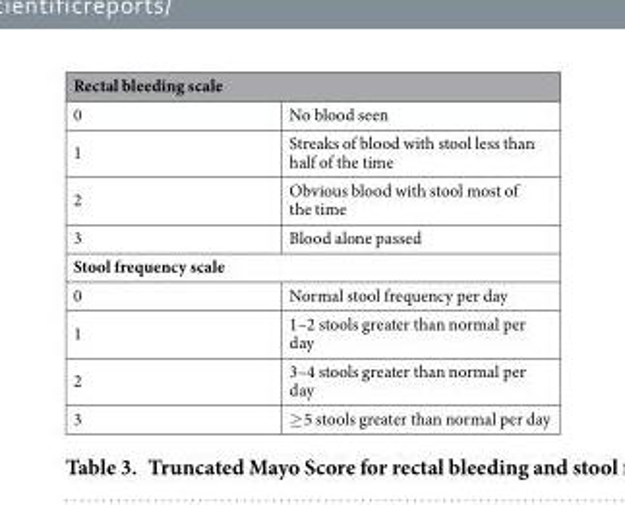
<table><thead><tr><td colspan="2">Rectal bleeding scale</td></tr><tr><td>0</td><td>No blood seen</td></tr></thead><tbody><tr><td>1</td><td>Streaks of blood with stool less than half of the time</td></tr><tr><td>2</td><td>Obvious blood with stool most of the time</td></tr><tr><td>3</td><td>Blood alone passed</td></tr><tr><td colspan="2">Stool frequency scale</td></tr><tr><td>0</td><td>Normal stool frequency per day</td></tr><tr><td>1</td><td>1–2 stools greater than normal per day</td></tr><tr><td>2</td><td>3–4 stools greater than normal per day</td></tr><tr><td>3</td><td>≥ 5 stools greater than normal per day</td></tr></tbody></table>